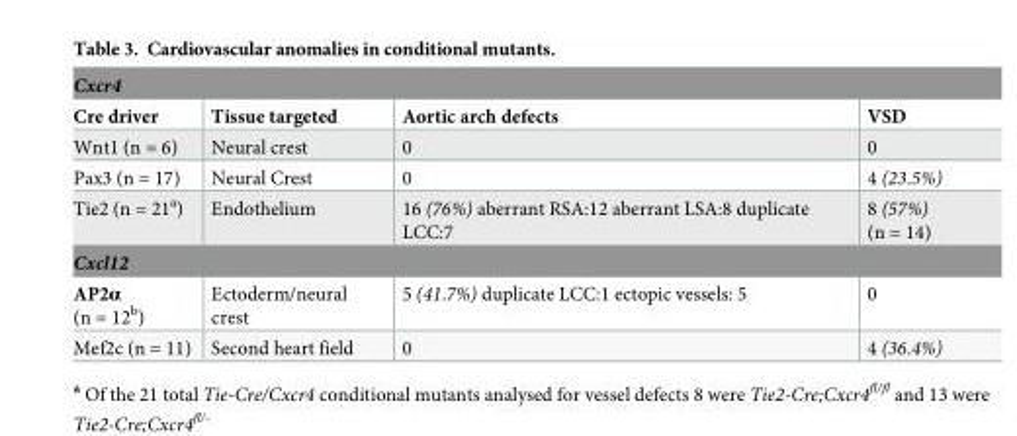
<table><tbody><tr><td colspan="4">Cxcr4</td></tr><tr><td>Cre driver</td><td>Tissue targeted</td><td>Aortic arch defects</td><td>VSD</td></tr><tr><td>Wnt1 (n = 6)</td><td>Neural crest</td><td>0</td><td>0</td></tr><tr><td>Pax3 (n = 17)</td><td>Neural Crest</td><td>0</td><td>4 (23.5%)</td></tr><tr><td>Tie2 (n = 21<sup>a</sup>)</td><td>Endothelium</td><td>16 (76%) aberrant RSA:12 aberrant LSA:8 duplicate LCC:7</td><td>8 (57%) (n = 14)</td></tr><tr><td colspan="4">Cxcl12</td></tr><tr><td>AP2α (n = 12<sup>b</sup>)</td><td>Ectoderm/neural crest</td><td>5 (41.7%) duplicate LCC:1 ectopic vessels: 5</td><td>0</td></tr><tr><td>Mef2c (n = 11)</td><td>Second heart field</td><td>0</td><td>4 (36.4%)</td></tr></tbody></table>